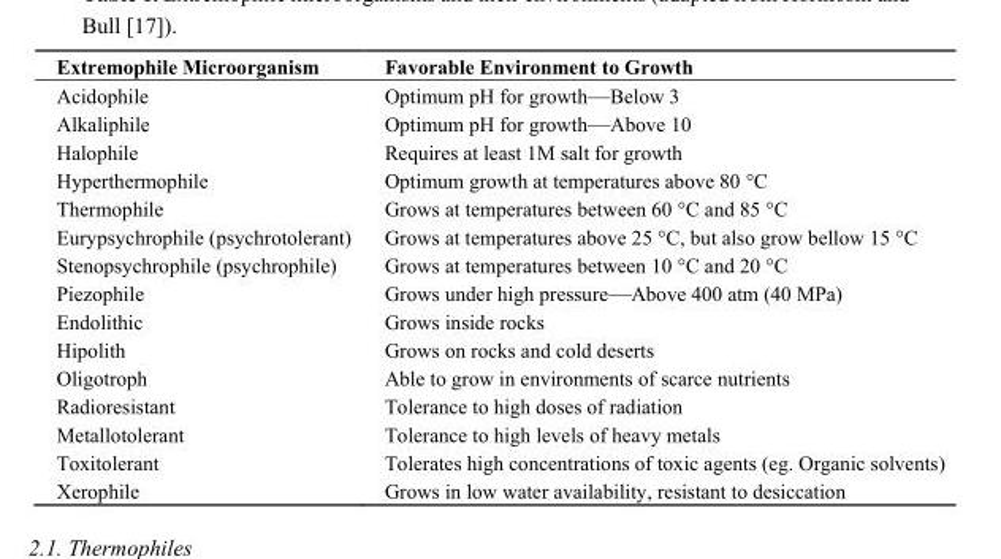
<table><thead><tr><td>Extremophile Microorganism</td><td>Favorable Environment to Growth</td></tr></thead><tbody><tr><td>Acidophile</td><td>Optimum pH for growth—Below 3</td></tr><tr><td>Alkaliphile</td><td>Optimum pH for growth—Above 10</td></tr><tr><td>Halophile</td><td>Requires at least 1M salt for growth</td></tr><tr><td>Hyperthermophile</td><td>Optimum growth at temperatures above 80 °C</td></tr><tr><td>Thermophile</td><td>Grows at temperatures between 60 °C and 85 °C</td></tr><tr><td>Eurypsychrophile (psychrotolerant)</td><td>Grows at temperatures above 25 °C, but also grow bellow 15 °C</td></tr><tr><td>Stenopsychrophile (psychrophile)</td><td>Grows at temperatures between 10 °C and 20 °C</td></tr><tr><td>Piezophile</td><td>Grows under high pressure—Above 400 atm (40 MPa)</td></tr><tr><td>Endolithic</td><td>Grows inside rocks</td></tr><tr><td>Hipolith</td><td>Grows on rocks and cold deserts</td></tr><tr><td>Oligotroph</td><td>Able to grow in environments of scarce nutrients</td></tr><tr><td>Radioresistant</td><td>Tolerance to high doses of radiation</td></tr><tr><td>Metallotolerant</td><td>Tolerance to high levels of heavy metals</td></tr><tr><td>Toxitolerant</td><td>Tolerates high concentrations of toxic agents (eg. Organic solvents)</td></tr><tr><td>Xerophile</td><td>Grows in low water availability, resistant to desiccation</td></tr></tbody></table>